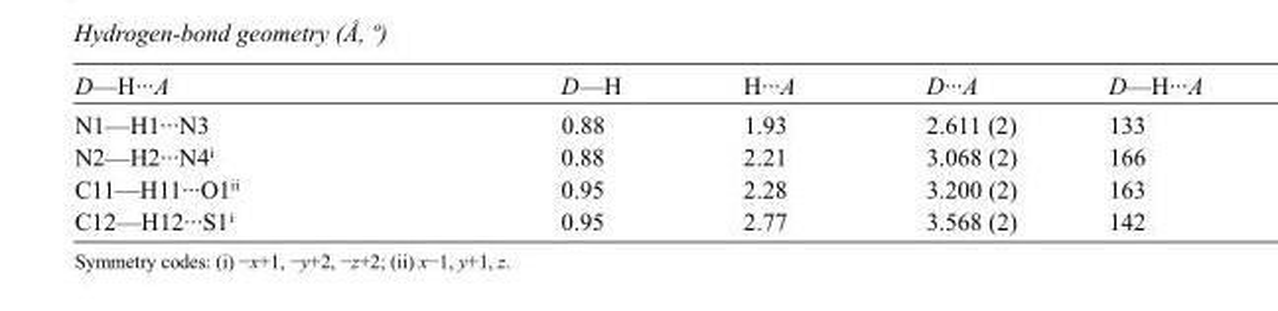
<table><tbody><tr><td>D—H···A</td><td>D—H</td><td>H···A</td><td>D···A</td><td>D—H···A</td></tr><tr><td>N1—H1···N3</td><td>0.88</td><td>1.93</td><td>2.611 (2)</td><td>133</td></tr><tr><td>N2—H2···N4<sup>i</sup></td><td>0.88</td><td>2.21</td><td>3.068 (2)</td><td>166</td></tr><tr><td>C11—H11···O1<sup>ii</sup></td><td>0.95</td><td>2.28</td><td>3.200 (2)</td><td>163</td></tr><tr><td>C12—H12···S1<sup>i</sup></td><td>0.95</td><td>2.77</td><td>3.568 (2)</td><td>142</td></tr></tbody></table>